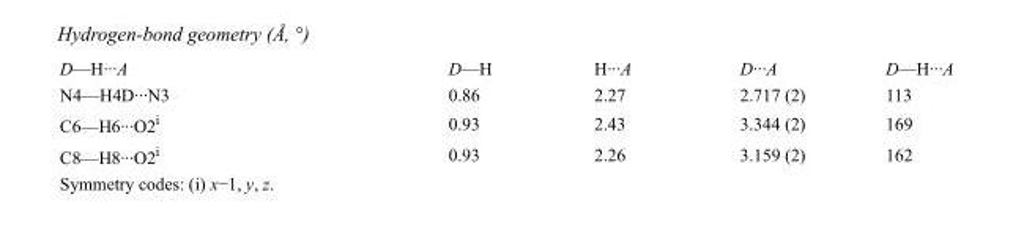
<table><tbody><tr><td>D—H···A</td><td>D—H</td><td>H···A</td><td>D···A</td><td>D—H···A</td></tr><tr><td>N4—H4D···N3</td><td>0.86</td><td>2.27</td><td>2.717 (2)</td><td>113</td></tr><tr><td>C6—H6···O2<sup>i</sup></td><td>0.93</td><td>2.43</td><td>3.344 (2)</td><td>169</td></tr><tr><td>C8—H8···O2<sup>i</sup></td><td>0.93</td><td>2.26</td><td>3.159 (2)</td><td>162</td></tr></tbody></table>